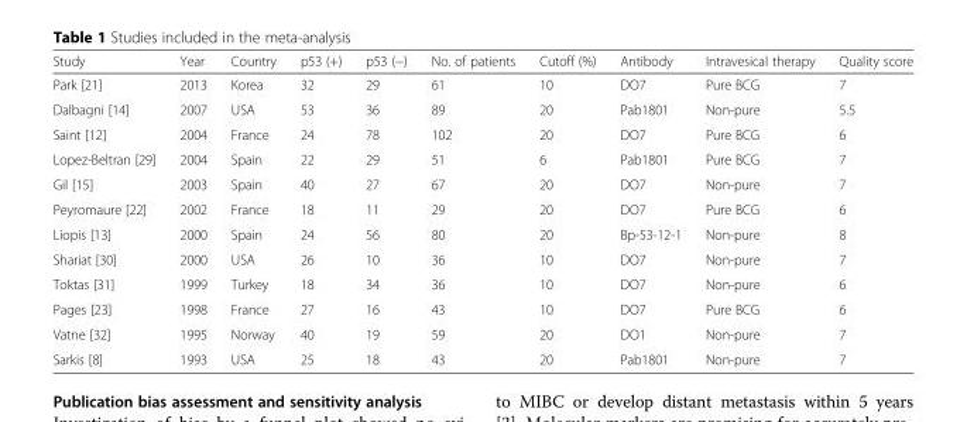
<table><thead><tr><td>Study</td><td>Year</td><td>Country</td><td>p53 (+)</td><td>p53 (−)</td><td>No. of patients</td><td>Cutoff (%)</td><td>Antibody</td><td>Intravesical therapy</td><td>Quality score</td></tr></thead><tbody><tr><td>Park [21]</td><td>2013</td><td>Korea</td><td>32</td><td>29</td><td>61</td><td>10</td><td>DO7</td><td>Pure BCG</td><td>7</td></tr><tr><td>Dalbagni [14]</td><td>2007</td><td>USA</td><td>53</td><td>36</td><td>89</td><td>20</td><td>Pab1801</td><td>Non-pure</td><td>5.5</td></tr><tr><td>Saint [12]</td><td>2004</td><td>France</td><td>24</td><td>78</td><td>102</td><td>20</td><td>DO7</td><td>Pure BCG</td><td>6</td></tr><tr><td>Lopez-Beltran [29]</td><td>2004</td><td>Spain</td><td>22</td><td>29</td><td>51</td><td>6</td><td>Pab1801</td><td>Pure BCG</td><td>7</td></tr><tr><td>Gil [15]</td><td>2003</td><td>Spain</td><td>40</td><td>27</td><td>67</td><td>20</td><td>DO7</td><td>Non-pure</td><td>7</td></tr><tr><td>Peyromaure [22]</td><td>2002</td><td>France</td><td>18</td><td>11</td><td>29</td><td>20</td><td>DO7</td><td>Pure BCG</td><td>6</td></tr><tr><td>Liopis [13]</td><td>2000</td><td>Spain</td><td>24</td><td>56</td><td>80</td><td>20</td><td>Bp-53-12-1</td><td>Non-pure</td><td>8</td></tr><tr><td>Shariat [30]</td><td>2000</td><td>USA</td><td>26</td><td>10</td><td>36</td><td>10</td><td>DO7</td><td>Non-pure</td><td>7</td></tr><tr><td>Toktas [31]</td><td>1999</td><td>Turkey</td><td>18</td><td>34</td><td>36</td><td>10</td><td>DO7</td><td>Non-pure</td><td>6</td></tr><tr><td>Pages [23]</td><td>1998</td><td>France</td><td>27</td><td>16</td><td>43</td><td>10</td><td>DO7</td><td>Pure BCG</td><td>6</td></tr><tr><td>Vatne [32]</td><td>1995</td><td>Norway</td><td>40</td><td>19</td><td>59</td><td>20</td><td>DO1</td><td>Non-pure</td><td>7</td></tr><tr><td>Sarkis [8]</td><td>1993</td><td>USA</td><td>25</td><td>18</td><td>43</td><td>20</td><td>Pab1801</td><td>Non-pure</td><td>7</td></tr></tbody></table>